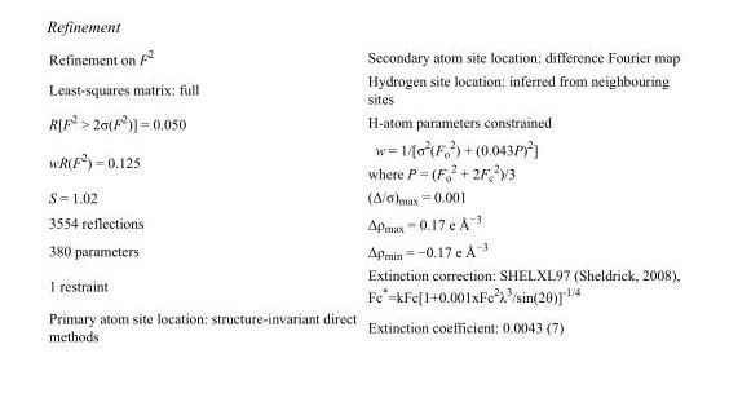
<table><tbody><tr><td>Refinement on F<sup>2</sup></td><td>Secondary atom site location: difference Fourier map</td></tr><tr><td>Least-squares matrix: full</td><td>Hydrogen site location: inferred from neighbouring sites</td></tr><tr><td>R[F<sup>2</sup> &gt; 2σ(F<sup>2</sup>)] = 0.050</td><td>H-atom parameters constrained</td></tr><tr><td>wR(F<sup>2</sup>) = 0.125</td><td>w = 1/[σ<sup>2</sup>(F<sub>o</sub> <sup>2</sup>) + (0.043P)<sup>2</sup>] where P = (F<sub>o</sub> <sup>2</sup> + 2F<sub>c</sub> <sup>2</sup>)/3</td></tr><tr><td>S = 1.02</td><td>(Δ/σ)<sub>max</sub> = 0.001</td></tr><tr><td>3554 reflections</td><td>Δρ<sub>max</sub> = 0.17 e Å<sup>−3</sup></td></tr><tr><td>380 parameters</td><td>Δρ<sub>min</sub> = −0.17 e Å<sup>−3</sup></td></tr><tr><td>1 restraint</td><td>Extinction correction: SHELXL97 (Sheldrick, 2008), Fc*=kFc[1+0.001xFc<sup>2</sup>λ<sup>3</sup>/sin(2θ)]<sup>-1/4</sup></td></tr><tr><td>Primary atom site location: structure-invariant direct methods</td><td>Extinction coefficient: 0.0043 (7)</td></tr></tbody></table>